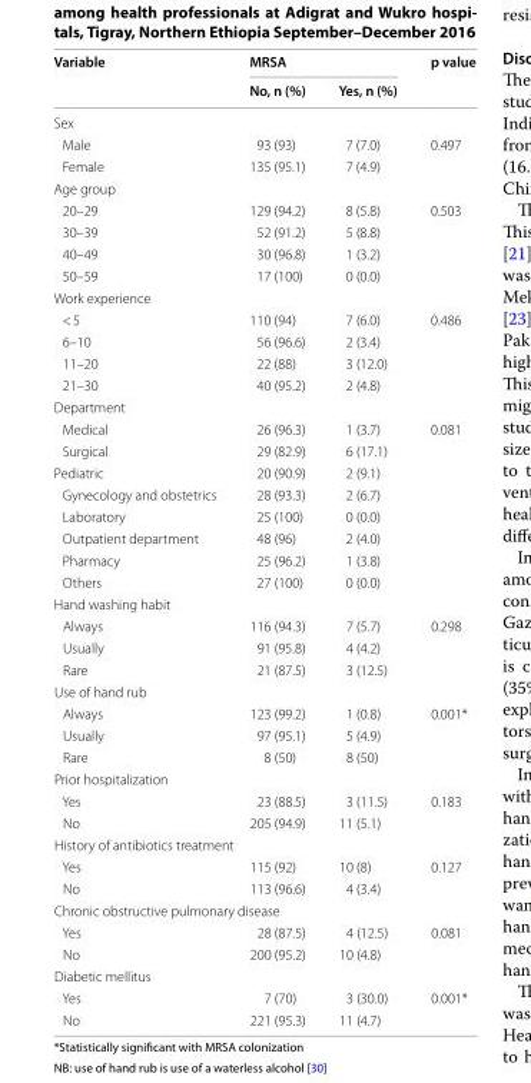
<table><thead><tr><td rowspan="2">Variable</td><td colspan="2">MRSA</td><td rowspan="2">p value</td></tr><tr><td>No, n (%)</td><td>Yes, n (%)</td></tr></thead><tbody><tr><td colspan="4">Sex</td></tr><tr><td>Male</td><td>93 (93)</td><td>7 (7.0)</td><td>0.497</td></tr><tr><td>Female</td><td>135 (95.1)</td><td>7 (4.9)</td><td></td></tr><tr><td colspan="4">Age group</td></tr><tr><td>20–29</td><td>129 (94.2)</td><td>8 (5.8)</td><td>0.503</td></tr><tr><td>30–39</td><td>52 (91.2)</td><td>5 (8.8)</td><td></td></tr><tr><td>40–49</td><td>30 (96.8)</td><td>1 (3.2)</td><td></td></tr><tr><td>50–59</td><td>17 (100)</td><td>0 (0.0)</td><td></td></tr><tr><td colspan="4">Work experience</td></tr><tr><td>&lt; 5</td><td>110 (94)</td><td>7 (6.0)</td><td>0.486</td></tr><tr><td>6–10</td><td>56 (96.6)</td><td>2 (3.4)</td><td></td></tr><tr><td>11–20</td><td>22 (88)</td><td>3 (12.0)</td><td></td></tr><tr><td>21–30</td><td>40 (95.2)</td><td>2 (4.8)</td><td></td></tr><tr><td colspan="4">Department</td></tr><tr><td>Medical</td><td>26 (96.3)</td><td>1 (3.7)</td><td>0.081</td></tr><tr><td>Surgical</td><td>29 (82.9)</td><td>6 (17.1)</td><td></td></tr><tr><td>Pediatric</td><td>20 (90.9)</td><td>2 (9.1)</td><td></td></tr><tr><td>Gynecology and obstetrics</td><td>28 (93.3)</td><td>2 (6.7)</td><td></td></tr><tr><td>Laboratory</td><td>25 (100)</td><td>0 (0.0)</td><td></td></tr><tr><td>Outpatient department</td><td>48 (96)</td><td>2 (4.0)</td><td></td></tr><tr><td>Pharmacy</td><td>25 (96.2)</td><td>1 (3.8)</td><td></td></tr><tr><td>Others</td><td>27 (100)</td><td>0 (0.0)</td><td></td></tr><tr><td colspan="4">Hand washing habit</td></tr><tr><td>Always</td><td>116 (94.3)</td><td>7 (5.7)</td><td>0.298</td></tr><tr><td>Usually</td><td>91 (95.8)</td><td>4 (4.2)</td><td></td></tr><tr><td>Rare</td><td>21 (87.5)</td><td>3 (12.5)</td><td></td></tr><tr><td colspan="4">Use of hand rub</td></tr><tr><td>Always</td><td>123 (99.2)</td><td>1 (0.8)</td><td>0.001*</td></tr><tr><td>Usually</td><td>97 (95.1)</td><td>5 (4.9)</td><td></td></tr><tr><td>Rare</td><td>8 (50)</td><td>8 (50)</td><td></td></tr><tr><td colspan="4">Prior hospitalization</td></tr><tr><td>Yes</td><td>23 (88.5)</td><td>3 (11.5)</td><td>0.183</td></tr><tr><td>No</td><td>205 (94.9)</td><td>11 (5.1)</td><td></td></tr><tr><td colspan="4">History of antibiotics treatment</td></tr><tr><td>Yes</td><td>115 (92)</td><td>10 (8)</td><td>0.127</td></tr><tr><td>No</td><td>113 (96.6)</td><td>4 (3.4)</td><td></td></tr><tr><td colspan="4">Chronic obstructive pulmonary disease</td></tr><tr><td>Yes</td><td>28 (87.5)</td><td>4 (12.5)</td><td>0.081</td></tr><tr><td>No</td><td>200 (95.2)</td><td>10 (4.8)</td><td></td></tr><tr><td colspan="4">Diabetic mellitus</td></tr><tr><td>Yes</td><td>7 (70)</td><td>3 (30.0)</td><td>0.001*</td></tr><tr><td>No</td><td>221 (95.3)</td><td>11 (4.7)</td><td></td></tr></tbody></table>